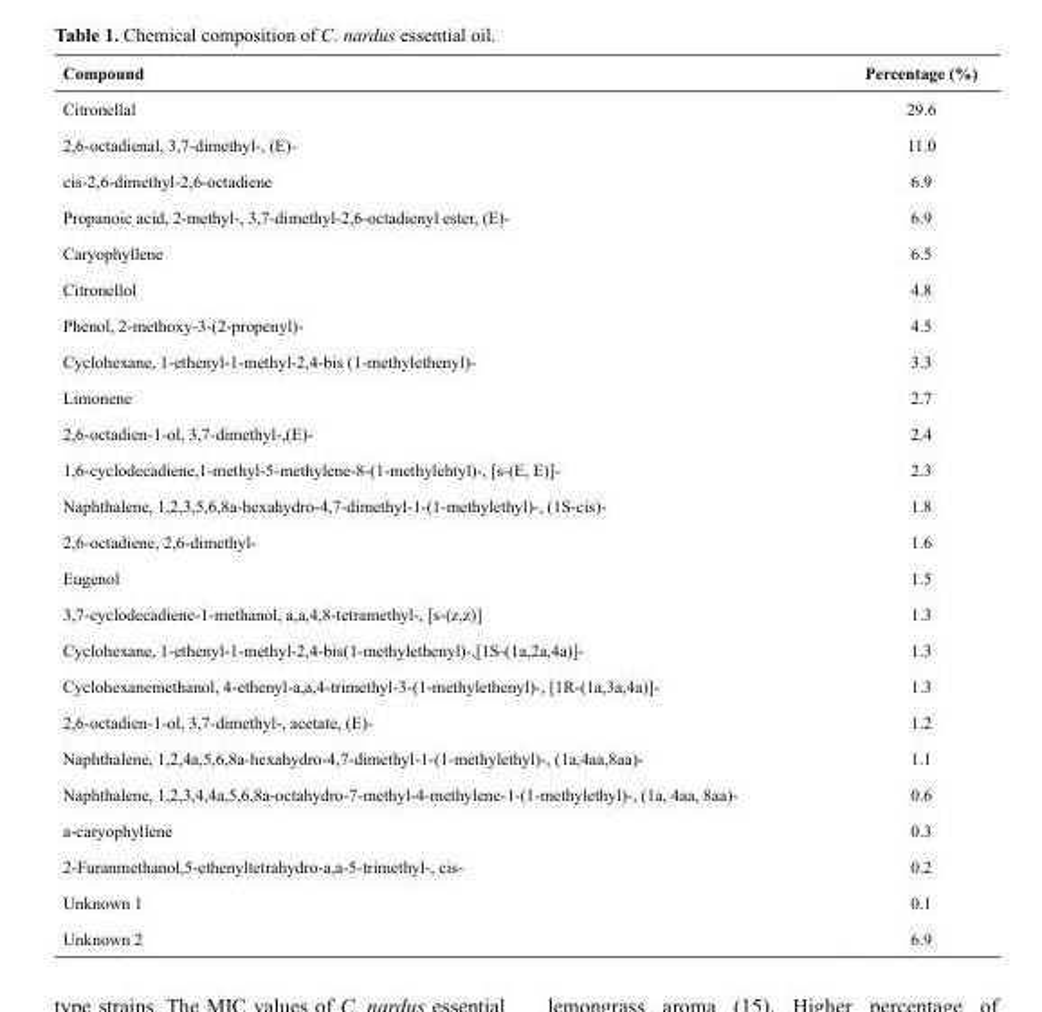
<table><thead><tr><td>Compound</td><td>Percentage (%)</td></tr></thead><tbody><tr><td>Citronellal</td><td>29.6</td></tr><tr><td>2,6-octadienal, 3,7-dimethyl-, (E)-</td><td>11.0</td></tr><tr><td>cis-2,6-dimethyl-2,6-octadiene</td><td>6.9</td></tr><tr><td>Propanoic acid, 2-methyl-, 3,7-dimethyl-2,6-octadienyl ester, (E)-</td><td>6.9</td></tr><tr><td>Caryophyllene</td><td>6.5</td></tr><tr><td>Citronellol</td><td>4.8</td></tr><tr><td>Phenol, 2-methoxy-3-(2-propenyl)-</td><td>4.5</td></tr><tr><td>Cyclohexane, 1-ethenyl-1-methyl-2,4-bis (1-methylethenyl)-</td><td>3.3</td></tr><tr><td>Limonene</td><td>2.7</td></tr><tr><td>2,6-octadien-1-ol, 3,7-dimethyl-,(E)-</td><td>2.4</td></tr><tr><td>1,6-cyclodecadiene,1-methyl-5-methylene-8-(1-methylehtyl)-, [s-(E, E)]-</td><td>2.3</td></tr><tr><td>Naphthalene, 1,2,3,5,6,8a-hexahydro-4,7-dimethyl-1-(1-methylethyl)-, (1S-cis)-</td><td>1.8</td></tr><tr><td>2,6-octadiene, 2,6-dimethyl-</td><td>1.6</td></tr><tr><td>Eugenol</td><td>1.5</td></tr><tr><td>3,7-cyclodecadiene-1-methanol, a,a,4,8-tetramethyl-, [s-(z,z)]</td><td>1.3</td></tr><tr><td>Cyclohexane, 1-ethenyl-1-methyl-2,4-bis(1-methylethenyl)-,[1S-(1a,2a,4a)]-</td><td>1.3</td></tr><tr><td>Cyclohexanemethanol, 4-ethenyl-a,a,4-trimethyl-3-(1-methylethenyl)-, [1R-(1a,3a,4a)]-</td><td>1.3</td></tr><tr><td>2,6-octadien-1-ol, 3,7-dimethyl-, acetate, (E)-</td><td>1.2</td></tr><tr><td>Naphthalene, 1,2,4a,5,6,8a-hexahydro-4,7-dimethyl-1-(1-methylethyl)-, (1a,4aa,8aa)-</td><td>1.1</td></tr><tr><td>Naphthalene, 1,2,3,4,4a,5,6,8a-octahydro-7-methyl-4-methylene-1-(1-methylethyl)-, (1a, 4aa, 8aa)-</td><td>0.6</td></tr><tr><td>a-caryophyllene</td><td>0.3</td></tr><tr><td>2-Furanmethanol,5-ethenyltetrahydro-a,a-5-trimethyl-, cis-</td><td>0.2</td></tr><tr><td>Unknown 1</td><td>0.1</td></tr><tr><td>Unknown 2</td><td>6.9</td></tr></tbody></table>